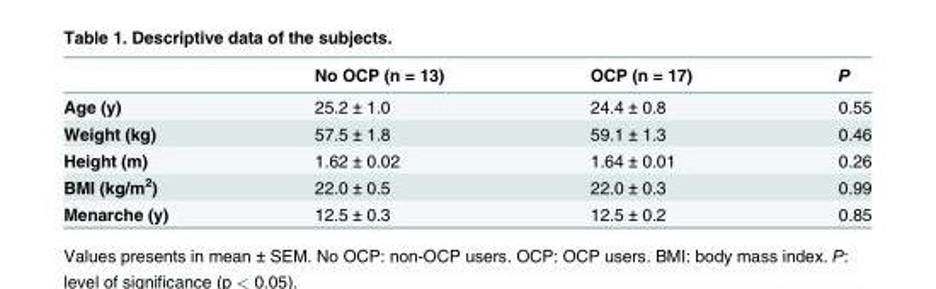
<table><thead><tr><td></td><td>No OCP (n = 13)</td><td>OCP (n = 17)</td><td>P</td></tr></thead><tbody><tr><td>Age (y)</td><td>25.2 ± 1.0</td><td>24.4 ± 0.8</td><td>0.55</td></tr><tr><td>Weight (kg)</td><td>57.5 ± 1.8</td><td>59.1 ± 1.3</td><td>0.46</td></tr><tr><td>Height (m)</td><td>1.62 ± 0.02</td><td>1.64 ± 0.01</td><td>0.26</td></tr><tr><td>BMI (kg/m<sup>2</sup>)</td><td>22.0 ± 0.5</td><td>22.0 ± 0.3</td><td>0.99</td></tr><tr><td>Menarche (y)</td><td>12.5 ± 0.3</td><td>12.5 ± 0.2</td><td>0.85</td></tr></tbody></table>